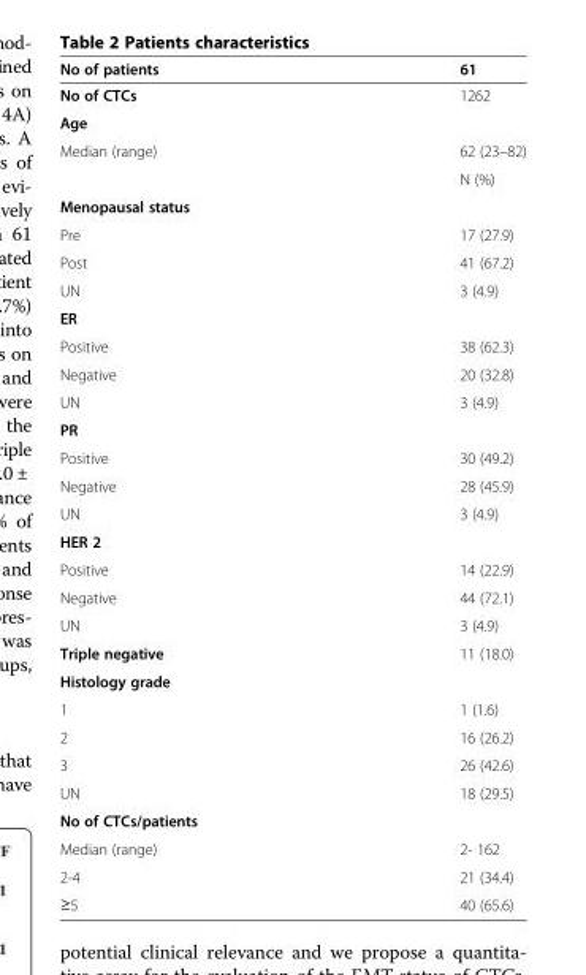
<table><thead><tr><td>No of patients</td><td>61</td></tr></thead><tbody><tr><td>No of CTCs</td><td>1262</td></tr><tr><td colspan="2">Age</td></tr><tr><td rowspan="2">Median (range)</td><td>62 (23–82)</td></tr><tr><td>N (%)</td></tr><tr><td colspan="2">Menopausal status</td></tr><tr><td>Pre</td><td>17 (27.9)</td></tr><tr><td>Post</td><td>41 (67.2)</td></tr><tr><td>UN</td><td>3 (4.9)</td></tr><tr><td colspan="2">ER</td></tr><tr><td>Positive</td><td>38 (62.3)</td></tr><tr><td>Negative</td><td>20 (32.8)</td></tr><tr><td>UN</td><td>3 (4.9)</td></tr><tr><td colspan="2">PR</td></tr><tr><td>Positive</td><td>30 (49.2)</td></tr><tr><td>Negative</td><td>28 (45.9)</td></tr><tr><td>UN</td><td>3 (4.9)</td></tr><tr><td colspan="2">HER 2</td></tr><tr><td>Positive</td><td>14 (22.9)</td></tr><tr><td>Negative</td><td>44 (72.1)</td></tr><tr><td>UN</td><td>3 (4.9)</td></tr><tr><td>Triple negative</td><td>11 (18.0)</td></tr><tr><td colspan="2">Histology grade</td></tr><tr><td>1</td><td>1 (1.6)</td></tr><tr><td>2</td><td>16 (26.2)</td></tr><tr><td>3</td><td>26 (42.6)</td></tr><tr><td>UN</td><td>18 (29.5)</td></tr><tr><td colspan="2">No of CTCs/patients</td></tr><tr><td>Median (range)</td><td>2- 162</td></tr><tr><td>2-4</td><td>21 (34.4)</td></tr><tr><td>≥5</td><td>40 (65.6)</td></tr></tbody></table>